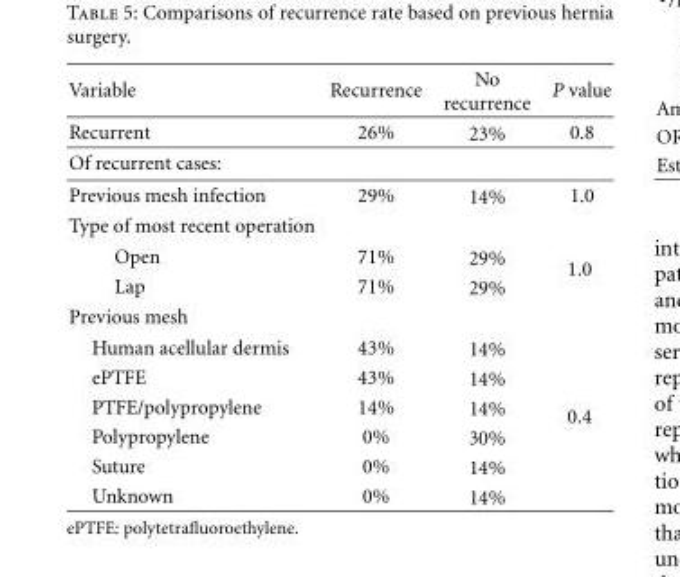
<table><thead><tr><td>Variable</td><td>Recurrence</td><td>No recurrence</td><td>P value</td></tr></thead><tbody><tr><td>Recurrent</td><td>26%</td><td>23%</td><td>0.8</td></tr><tr><td colspan="4">Of recurrent cases:</td></tr><tr><td>Previous mesh infection</td><td>29%</td><td>14%</td><td>1.0</td></tr><tr><td colspan="4">Type of most recent operation</td></tr><tr><td>Open</td><td>71%</td><td>29%</td><td rowspan="2">1.0</td></tr><tr><td>Lap</td><td>71%</td><td>29%</td></tr><tr><td colspan="4">Previous mesh</td></tr><tr><td>Human acellular dermis</td><td>43%</td><td>14%</td><td rowspan="6">0.4</td></tr><tr><td>ePTFE</td><td>43%</td><td>14%</td></tr><tr><td>PTFE/polypropylene</td><td>14%</td><td>14%</td></tr><tr><td>Polypropylene</td><td>0%</td><td>30%</td></tr><tr><td>Suture</td><td>0%</td><td>14%</td></tr><tr><td>Unknown</td><td>0%</td><td>14%</td></tr></tbody></table>